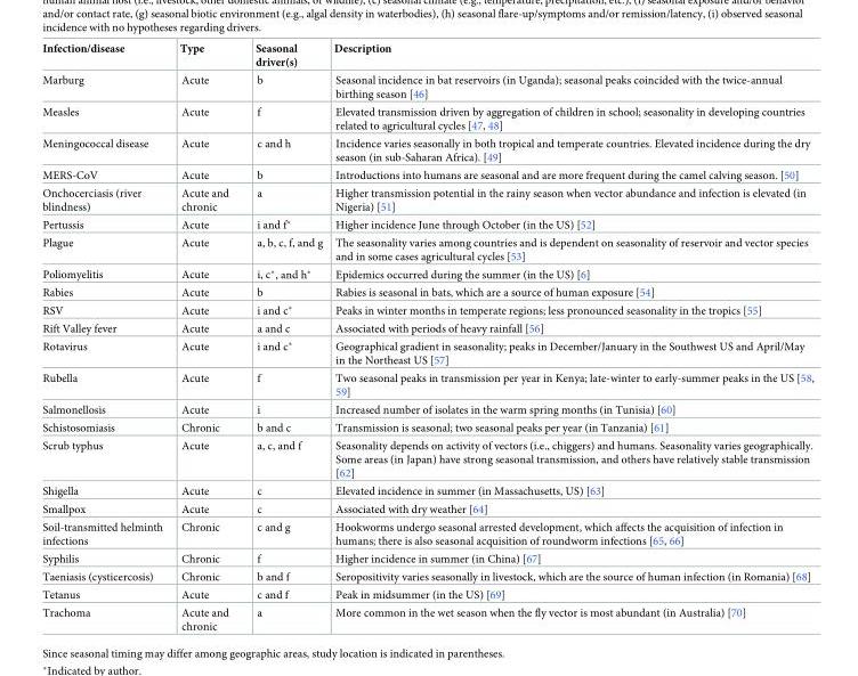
<table><thead><tr><td>Infection/disease</td><td>Type</td><td>Seasonal driver(s)</td><td>Description</td></tr></thead><tbody><tr><td>Marburg</td><td>Acute</td><td>b</td><td>Seasonal incidence in bat reservoirs (in Uganda); seasonal peaks coincided with the twice-annual birthing season [46]</td></tr><tr><td>Measles</td><td>Acute</td><td>f</td><td>Elevated transmission driven by aggregation of children in school; seasonality in developing countries related to agricultural cycles [47, 48]</td></tr><tr><td>Meningococcal disease</td><td>Acute</td><td>c and h</td><td>Incidence varies seasonally in both tropical and temperate countries. Elevated incidence during the dry season (in sub-Saharan Africa). [49]</td></tr><tr><td>MERS-CoV</td><td>Acute</td><td>b</td><td>Introductions into humans are seasonal and are more frequent during the camel calving season. [50]</td></tr><tr><td>Onchocerciasis (river blindness)</td><td>Acute and chronic</td><td>a</td><td>Higher transmission potential in the rainy season when vector abundance and infection is elevated (in Nigeria) [51]</td></tr><tr><td>Pertussis</td><td>Acute</td><td>i and f*</td><td>Higher incidence June through October (in the US) [52]</td></tr><tr><td>Plague</td><td>Acute</td><td>a, b, c, f, and g</td><td>The seasonality varies among countries and is dependent on seasonality of reservoir and vector species and in some cases agricultural cycles [53]</td></tr><tr><td>Poliomyelitis</td><td>Acute</td><td>i, c*, and h*</td><td>Epidemics occurred during the summer (in the US) [6]</td></tr><tr><td>Rabies</td><td>Acute</td><td>b</td><td>Rabies is seasonal in bats, which are a source of human exposure [54]</td></tr><tr><td>RSV</td><td>Acute</td><td>i and c*</td><td>Peaks in winter months in temperate regions; less pronounced seasonality in the tropics [55]</td></tr><tr><td>Rift Valley fever</td><td>Acute</td><td>a and c</td><td>Associated with periods of heavy rainfall [56]</td></tr><tr><td>Rotavirus</td><td>Acute</td><td>i and c*</td><td>Geographical gradient in seasonality; peaks in December/January in the Southwest US and April/May in the Northeast US [57]</td></tr><tr><td>Rubella</td><td>Acute</td><td>f</td><td>Two seasonal peaks in transmission per year in Kenya; late-winter to early-summer peaks in the US [58, 59]</td></tr><tr><td>Salmonellosis</td><td>Acute</td><td>i</td><td>Increased number of isolates in the warm spring months (in Tunisia) [60]</td></tr><tr><td>Schistosomiasis</td><td>Chronic</td><td>b and c</td><td>Transmission is seasonal; two seasonal peaks per year (in Tanzania) [61]</td></tr><tr><td>Scrub typhus</td><td>Acute</td><td>a, c, and f</td><td>Seasonality depends on activity of vectors (i.e., chiggers) and humans. Seasonality varies geographically. Some areas (in Japan) have strong seasonal transmission, and others have relatively stable transmission [62]</td></tr><tr><td>Shigella</td><td>Acute</td><td>c</td><td>Elevated incidence in summer (in Massachusetts, US) [63]</td></tr><tr><td>Smallpox</td><td>Acute</td><td>c</td><td>Associated with dry weather [64]</td></tr><tr><td>Soil-transmitted helminth infections</td><td>Chronic</td><td>c and g</td><td>Hookworms undergo seasonal arrested development, which affects the acquisition of infection in humans; there is also seasonal acquisition of roundworm infections [65, 66]</td></tr><tr><td>Syphilis</td><td>Chronic</td><td>f</td><td>Higher incidence in summer (in China) [67]</td></tr><tr><td>Taeniasis (cysticercosis)</td><td>Chronic</td><td>b and f</td><td>Seropositivity varies seasonally in livestock, which are the source of human infection (in Romania) [68]</td></tr><tr><td>Tetanus</td><td>Acute</td><td>c and f</td><td>Peak in midsummer (in the US) [69]</td></tr><tr><td>Trachoma</td><td>Acute and chronic</td><td>a</td><td>More common in the wet season when the fly vector is most abundant (in Australia) [70]</td></tr></tbody></table>